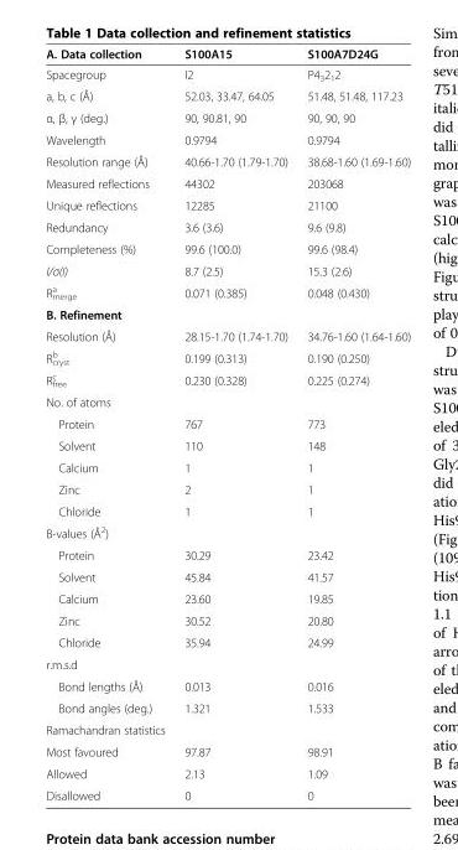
<table><thead><tr><td>A. Data collection</td><td>S100A15</td><td>S100A7D24G</td></tr></thead><tbody><tr><td>Spacegroup</td><td>I2</td><td>P4<sub>3</sub>2<sub>1</sub>2</td></tr><tr><td>a, b, c (Å)</td><td>52.03, 33.47, 64.05</td><td>51.48, 51.48, 117.23</td></tr><tr><td>α, β, γ (deg.)</td><td>90, 90.81, 90</td><td>90, 90, 90</td></tr><tr><td>Wavelength</td><td>0.9794</td><td>0.9794</td></tr><tr><td>Resolution range (Å)</td><td>40.66-1.70 (1.79-1.70)</td><td>38.68-1.60 (1.69-1.60)</td></tr><tr><td>Measured reflections</td><td>44302</td><td>203068</td></tr><tr><td>Unique reflections</td><td>12285</td><td>21100</td></tr><tr><td>Redundancy</td><td>3.6 (3.6)</td><td>9.6 (9.8)</td></tr><tr><td>Completeness (%)</td><td>99.6 (100.0)</td><td>99.6 (98.4)</td></tr><tr><td>I/σ(I)</td><td>8.7 (2.5)</td><td>15.3 (2.6)</td></tr><tr><td>R<sub>merge</sub> <sup>a</sup></td><td>0.071 (0.385)</td><td>0.048 (0.430)</td></tr><tr><td colspan="3">B. Refinement</td></tr><tr><td>Resolution (Å)</td><td>28.15-1.70 (1.74-1.70)</td><td>34.76-1.60 (1.64-1.60)</td></tr><tr><td>R<sub>cryst</sub> <sup>b</sup></td><td>0.199 (0.313)</td><td>0.190 (0.250)</td></tr><tr><td>R<sub>free</sub> <sup>c</sup></td><td>0.230 (0.328)</td><td>0.225 (0.274)</td></tr><tr><td colspan="3">No. of atoms</td></tr><tr><td>Protein</td><td>767</td><td>773</td></tr><tr><td>Solvent</td><td>110</td><td>148</td></tr><tr><td>Calcium</td><td>1</td><td>1</td></tr><tr><td>Zinc</td><td>2</td><td>1</td></tr><tr><td>Chloride</td><td>1</td><td>1</td></tr><tr><td colspan="3">B-values (Å<sup>2</sup>)</td></tr><tr><td>Protein</td><td>30.29</td><td>23.42</td></tr><tr><td>Solvent</td><td>45.84</td><td>41.57</td></tr><tr><td>Calcium</td><td>23.60</td><td>19.85</td></tr><tr><td>Zinc</td><td>30.52</td><td>20.80</td></tr><tr><td>Chloride</td><td>35.94</td><td>24.99</td></tr><tr><td colspan="3">r.m.s.d</td></tr><tr><td>Bond lengths (Å)</td><td>0.013</td><td>0.016</td></tr><tr><td>Bond angles (deg.)</td><td>1.321</td><td>1.533</td></tr><tr><td colspan="3">Ramachandran statistics</td></tr><tr><td>Most favoured</td><td>97.87</td><td>98.91</td></tr><tr><td>Allowed</td><td>2.13</td><td>1.09</td></tr><tr><td>Disallowed</td><td>0</td><td>0</td></tr></tbody></table>